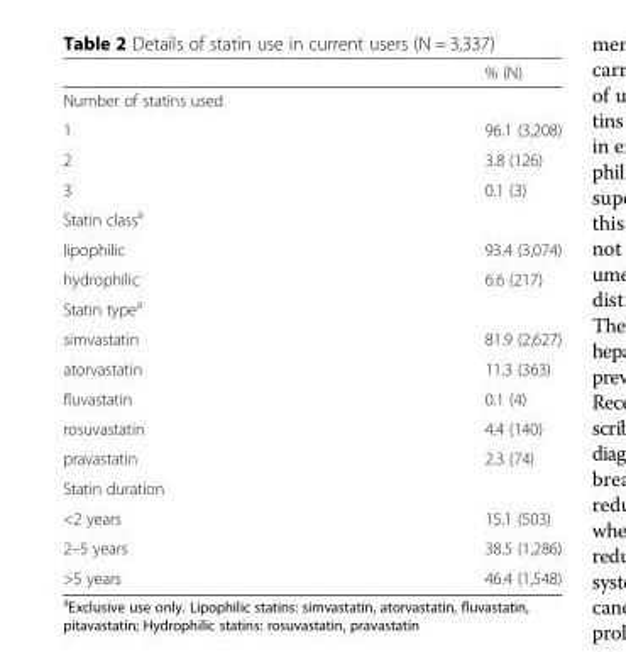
<table><thead><tr><td></td><td>% (N)</td></tr></thead><tbody><tr><td colspan="2">Number of statins used</td></tr><tr><td>1</td><td>96.1 (3,208)</td></tr><tr><td>2</td><td>3.8 (126)</td></tr><tr><td>3</td><td>0.1 (3)</td></tr><tr><td colspan="2">Statin class<sup>a</sup></td></tr><tr><td>lipophilic</td><td>93.4 (3,074)</td></tr><tr><td>hydrophilic</td><td>6.6 (217)</td></tr><tr><td colspan="2">Statin type<sup>a</sup></td></tr><tr><td>simvastatin</td><td>81.9 (2,627)</td></tr><tr><td>atorvastatin</td><td>11.3 (363)</td></tr><tr><td>fluvastatin</td><td>0.1 (4)</td></tr><tr><td>rosuvastatin</td><td>4.4 (140)</td></tr><tr><td>pravastatin</td><td>2.3 (74)</td></tr><tr><td colspan="2">Statin duration</td></tr><tr><td>&lt;2 years</td><td>15.1 (503)</td></tr><tr><td>2–5 years</td><td>38.5 (1,286)</td></tr><tr><td>&gt;5 years</td><td>46.4 (1,548)</td></tr></tbody></table>